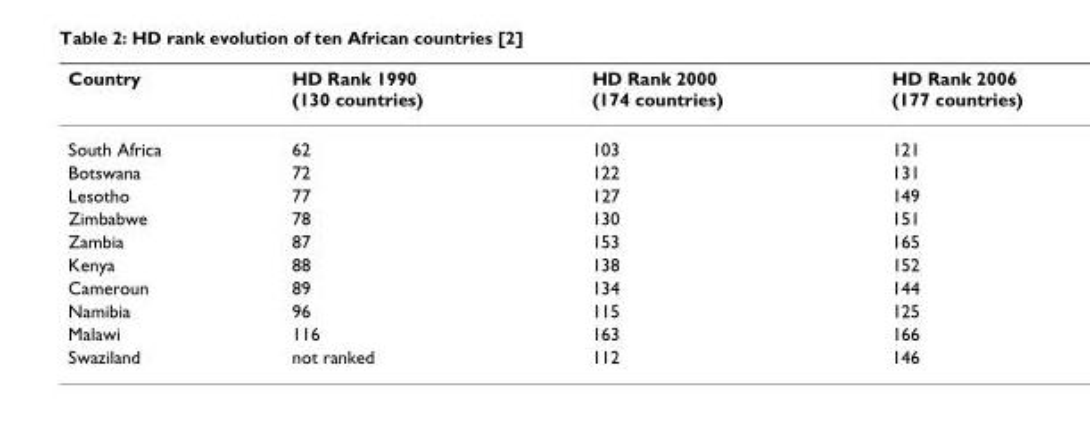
<table><thead><tr><td>Country</td><td>HD Rank 1990 (130 countries)</td><td>HD Rank 2000 (174 countries)</td><td>HD Rank 2006 (177 countries)</td></tr></thead><tbody><tr><td>South Africa</td><td>62</td><td>103</td><td>121</td></tr><tr><td>Botswana</td><td>72</td><td>122</td><td>131</td></tr><tr><td>Lesotho</td><td>77</td><td>127</td><td>149</td></tr><tr><td>Zimbabwe</td><td>78</td><td>130</td><td>151</td></tr><tr><td>Zambia</td><td>87</td><td>153</td><td>165</td></tr><tr><td>Kenya</td><td>88</td><td>138</td><td>152</td></tr><tr><td>Cameroun</td><td>89</td><td>134</td><td>144</td></tr><tr><td>Namibia</td><td>96</td><td>115</td><td>125</td></tr><tr><td>Malawi</td><td>116</td><td>163</td><td>166</td></tr><tr><td>Swaziland</td><td>not ranked</td><td>112</td><td>146</td></tr></tbody></table>